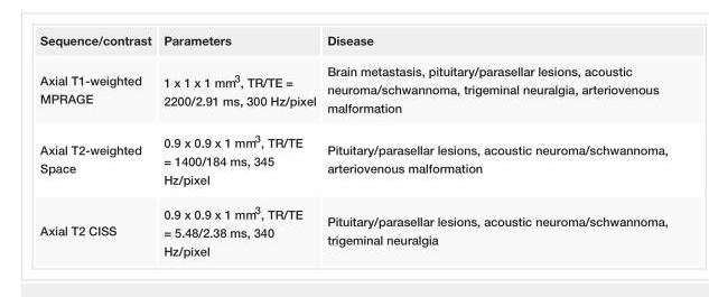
<table><tbody><tr><td>Sequence/contrast</td><td>Parameters</td><td>Disease</td></tr><tr><td>Axial T1-weighted MPRAGE</td><td>1 x 1 x 1 mm<sup>3</sup>, TR/TE = 2200/2.91 ms, 300 Hz/pixel</td><td>Brain metastasis, pituitary/parasellar lesions, acoustic neuroma/schwannoma, trigeminal neuralgia, arteriovenous malformation</td></tr><tr><td>Axial T2-weighted Space</td><td>0.9 x 0.9 x 1 mm<sup>3</sup>, TR/TE = 1400/184 ms, 345 Hz/pixel</td><td>Pituitary/parasellar lesions, acoustic neuroma/schwannoma, arteriovenous malformation</td></tr><tr><td>Axial T2 CISS</td><td>0.9 x 0.9 x 1 mm<sup>3</sup>, TR/TE = 5.48/2.38 ms, 340 Hz/pixel</td><td>Pituitary/parasellar lesions, acoustic neuroma/schwannoma, trigeminal neuralgia</td></tr></tbody></table>